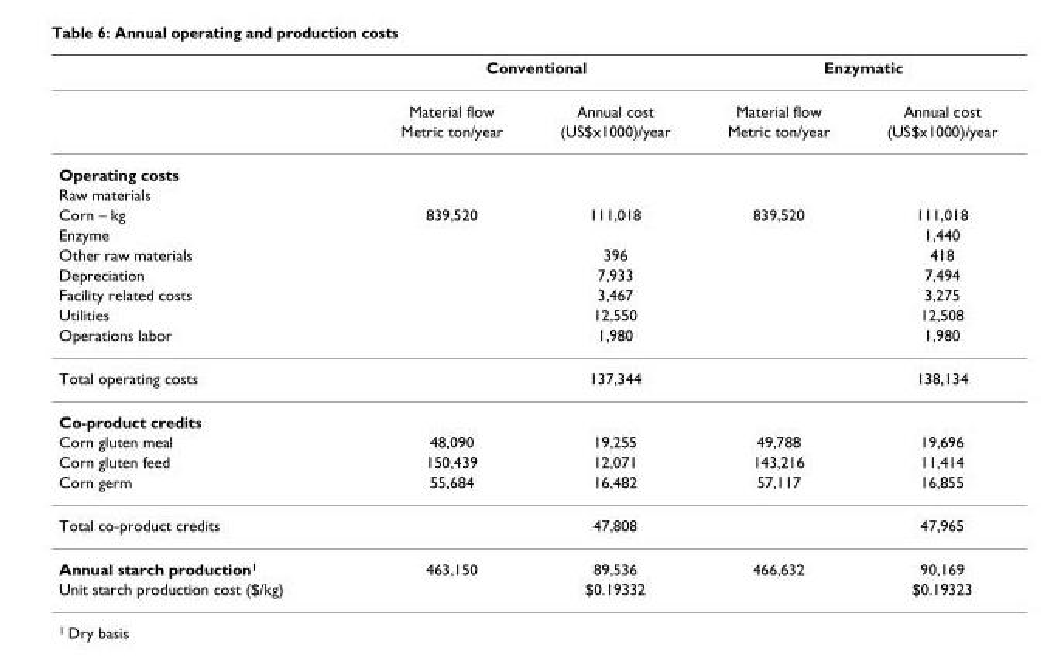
<table><thead><tr><td rowspan="2"></td><td colspan="2">Conventional</td><td colspan="2">Enzymatic</td></tr><tr><td>Material flow</td><td>Annual cost</td><td>Material flow</td><td>Annual cost</td></tr></thead><tbody><tr><td></td><td>Metric ton/year</td><td>(US$x1000)/year</td><td>Metric ton/year</td><td>(US$x1000)/year</td></tr><tr><td colspan="5">Operating costs</td></tr><tr><td colspan="5">Raw materials</td></tr><tr><td>Corn – kg</td><td>839,520</td><td>111,018</td><td>839,520</td><td>111,018</td></tr><tr><td>Enzyme</td><td></td><td></td><td></td><td>1,440</td></tr><tr><td>Other raw materials</td><td></td><td>396</td><td></td><td>418</td></tr><tr><td>Depreciation</td><td></td><td>7,933</td><td></td><td>7,494</td></tr><tr><td>Facility related costs</td><td></td><td>3,467</td><td></td><td>3,275</td></tr><tr><td>Utilities</td><td></td><td>12,550</td><td></td><td>12,508</td></tr><tr><td>Operations labor</td><td></td><td>1,980</td><td></td><td>1,980</td></tr><tr><td>Total operating costs</td><td></td><td>137,344</td><td></td><td>138,134</td></tr><tr><td colspan="5">Co-product credits</td></tr><tr><td>Corn gluten meal</td><td>48,090</td><td>19,255</td><td>49,788</td><td>19,696</td></tr><tr><td>Corn gluten feed</td><td>150,439</td><td>12,071</td><td>143,216</td><td>11,414</td></tr><tr><td>Corn germ</td><td>55,684</td><td>16,482</td><td>57,117</td><td>16,855</td></tr><tr><td>Total co-product credits</td><td></td><td>47,808</td><td></td><td>47,965</td></tr><tr><td>Annual starch production<sup>1</sup></td><td>463,150</td><td>89,536</td><td>466,632</td><td>90,169</td></tr><tr><td>Unit starch production cost ($/kg)</td><td></td><td>$0.19332</td><td></td><td>$0.19323</td></tr></tbody></table>